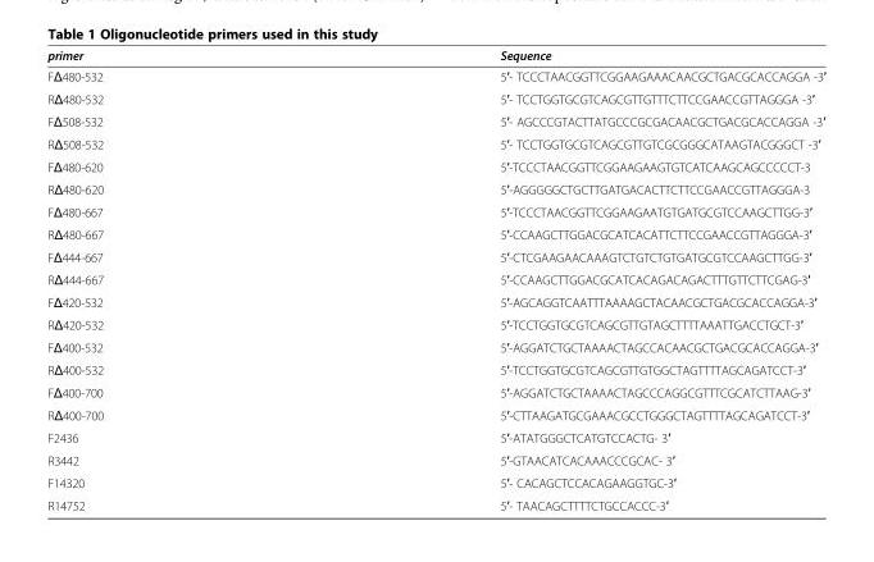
<table><thead><tr><td>primer</td><td>Sequence</td></tr></thead><tbody><tr><td>FΔ480-532</td><td>5′- TCCCTAACGGTTCGGAAGAAACAACGCTGACGCACCAGGA -3′</td></tr><tr><td>RΔ480-532</td><td>5′- TCCTGGTGCGTCAGCGTTGTTTCTTCCGAACCGTTAGGGA -3′</td></tr><tr><td>FΔ508-532</td><td>5′- AGCCCGTACTTATGCCCGCGACAACGCTGACGCACCAGGA -3′</td></tr><tr><td>RΔ508-532</td><td>5′- TCCTGGTGCGTCAGCGTTGTCGCGGGCATAAGTACGGGCT -3′</td></tr><tr><td>FΔ480-620</td><td>5′-TCCCTAACGGTTCGGAAGAAGTGTCATCAAGCAGCCCCCT-3</td></tr><tr><td>RΔ480-620</td><td>5′-AGGGGGCTGCTTGATGACACTTCTTCCGAACCGTTAGGGA-3</td></tr><tr><td>FΔ480-667</td><td>5′-TCCCTAACGGTTCGGAAGAATGTGATGCGTCCAAGCTTGG-3′</td></tr><tr><td>RΔ480-667</td><td>5′-CCAAGCTTGGACGCATCACATTCTTCCGAACCGTTAGGGA-3′</td></tr><tr><td>FΔ444-667</td><td>5′-CTCGAAGAACAAAGTCTGTCTGTGATGCGTCCAAGCTTGG-3′</td></tr><tr><td>RΔ444-667</td><td>5′-CCAAGCTTGGACGCATCACAGACAGACTTTGTTCTTCGAG-3′</td></tr><tr><td>FΔ420-532</td><td>5′-AGCAGGTCAATTTAAAAGCTACAACGCTGACGCACCAGGA-3′</td></tr><tr><td>RΔ420-532</td><td>5′-TCCTGGTGCGTCAGCGTTGTAGCTTTTAAATTGACCTGCT-3′</td></tr><tr><td>FΔ400-532</td><td>5′-AGGATCTGCTAAAACTAGCCACAACGCTGACGCACCAGGA-3′</td></tr><tr><td>RΔ400-532</td><td>5′-TCCTGGTGCGTCAGCGTTGTGGCTAGTTTTAGCAGATCCT-3′</td></tr><tr><td>FΔ400-700</td><td>5′-AGGATCTGCTAAAACTAGCCCAGGCGTTTCGCATCTTAAG-3′</td></tr><tr><td>RΔ400-700</td><td>5′-CTTAAGATGCGAAACGCCTGGGCTAGTTTTAGCAGATCCT-3′</td></tr><tr><td>F2436</td><td>5′-ATATGGGCTCATGTCCACTG- 3′</td></tr><tr><td>R3442</td><td>5′-GTAACATCACAAACCCGCAC- 3′</td></tr><tr><td>F14320</td><td>5′- CACAGCTCCACAGAAGGTGC-3′</td></tr><tr><td>R14752</td><td>5′- TAACAGCTTTTCTGCCACCC-3′</td></tr></tbody></table>